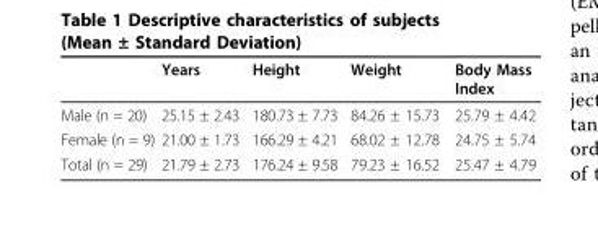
<table><thead><tr><td></td><td>Years</td><td>Height</td><td>Weight</td><td>Body Mass Index</td></tr></thead><tbody><tr><td>Male (n = 20)</td><td>25.15 ± 2.43</td><td>180.73 ± 7.73</td><td>84.26 ± 15.73</td><td>25.79 ± 4.42</td></tr><tr><td>Female (n = 9)</td><td>21.00 ± 1.73</td><td>166.29 ± 4.21</td><td>68.02 ± 12.78</td><td>24.75 ± 5.74</td></tr><tr><td>Total (n = 29)</td><td>21.79 ± 2.73</td><td>176.24 ± 9.58</td><td>79.23 ± 16.52</td><td>25.47 ± 4.79</td></tr></tbody></table>